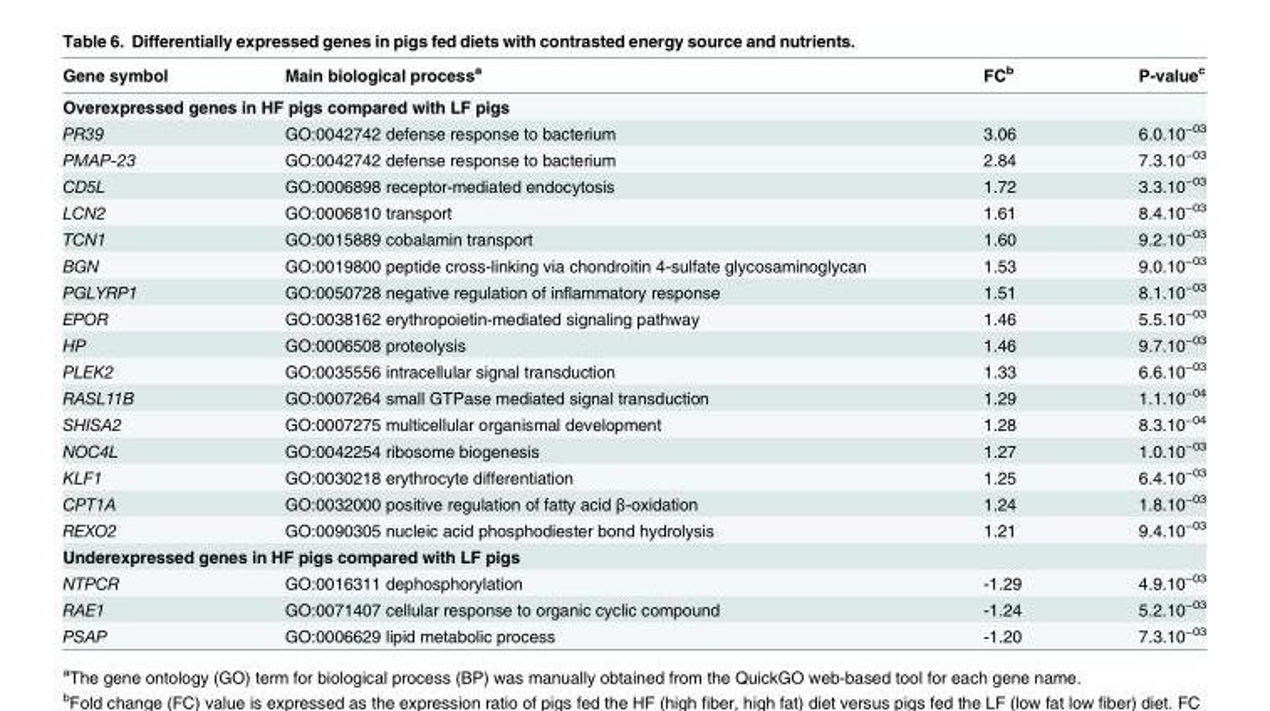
<table><thead><tr><td>Gene symbol</td><td>Main biological process<sup>a</sup></td><td>FC<sup>b</sup></td><td>P-value<sup>c</sup></td></tr></thead><tbody><tr><td colspan="4">Overexpressed genes in HF pigs compared with LF pigs</td></tr><tr><td>PR39</td><td>GO:0042742 defense response to bacterium</td><td>3.06</td><td>6.0.10<sup>−03</sup></td></tr><tr><td>PMAP-23</td><td>GO:0042742 defense response to bacterium</td><td>2.84</td><td>7.3.10<sup>−03</sup></td></tr><tr><td>CD5L</td><td>GO:0006898 receptor-mediated endocytosis</td><td>1.72</td><td>3.3.10<sup>−03</sup></td></tr><tr><td>LCN2</td><td>GO:0006810 transport</td><td>1.61</td><td>8.4.10<sup>−03</sup></td></tr><tr><td>TCN1</td><td>GO:0015889 cobalamin transport</td><td>1.60</td><td>9.2.10<sup>−03</sup></td></tr><tr><td>BGN</td><td>GO:0019800 peptide cross-linking via chondroitin 4-sulfate glycosaminoglycan</td><td>1.53</td><td>9.0.10<sup>−03</sup></td></tr><tr><td>PGLYRP1</td><td>GO:0050728 negative regulation of inflammatory response</td><td>1.51</td><td>8.1.10<sup>−03</sup></td></tr><tr><td>EPOR</td><td>GO:0038162 erythropoietin-mediated signaling pathway</td><td>1.46</td><td>5.5.10<sup>−03</sup></td></tr><tr><td>HP</td><td>GO:0006508 proteolysis</td><td>1.46</td><td>9.7.10<sup>−03</sup></td></tr><tr><td>PLEK2</td><td>GO:0035556 intracellular signal transduction</td><td>1.33</td><td>6.6.10<sup>−03</sup></td></tr><tr><td>RASL11B</td><td>GO:0007264 small GTPase mediated signal transduction</td><td>1.29</td><td>1.1.10<sup>−04</sup></td></tr><tr><td>SHISA2</td><td>GO:0007275 multicellular organismal development</td><td>1.28</td><td>8.3.10<sup>−04</sup></td></tr><tr><td>NOC4L</td><td>GO:0042254 ribosome biogenesis</td><td>1.27</td><td>1.0.10<sup>−03</sup></td></tr><tr><td>KLF1</td><td>GO:0030218 erythrocyte differentiation</td><td>1.25</td><td>6.4.10<sup>−03</sup></td></tr><tr><td>CPT1A</td><td>GO:0032000 positive regulation of fatty acid β-oxidation</td><td>1.24</td><td>1.8.10<sup>−03</sup></td></tr><tr><td>REXO2</td><td>GO:0090305 nucleic acid phosphodiester bond hydrolysis</td><td>1.21</td><td>9.4.10<sup>−03</sup></td></tr><tr><td colspan="4">Underexpressed genes in HF pigs compared with LF pigs</td></tr><tr><td>NTPCR</td><td>GO:0016311 dephosphorylation</td><td>-1.29</td><td>4.9.10<sup>−03</sup></td></tr><tr><td>RAE1</td><td>GO:0071407 cellular response to organic cyclic compound</td><td>-1.24</td><td>5.2.10<sup>−03</sup></td></tr><tr><td>PSAP</td><td>GO:0006629 lipid metabolic process</td><td>-1.20</td><td>7.3.10<sup>−03</sup></td></tr></tbody></table>